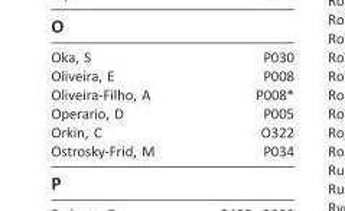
<table><tbody><tr><td>Oka, S</td><td>P030</td></tr><tr><td>Oliveira, E</td><td>P008</td></tr><tr><td>Oliveira-Filho, A</td><td>P008*</td></tr><tr><td>Operario, D</td><td>P005</td></tr><tr><td>Orkin, C</td><td>O322</td></tr><tr><td>Ostrosky-Frid, M</td><td>P034</td></tr></tbody></table>